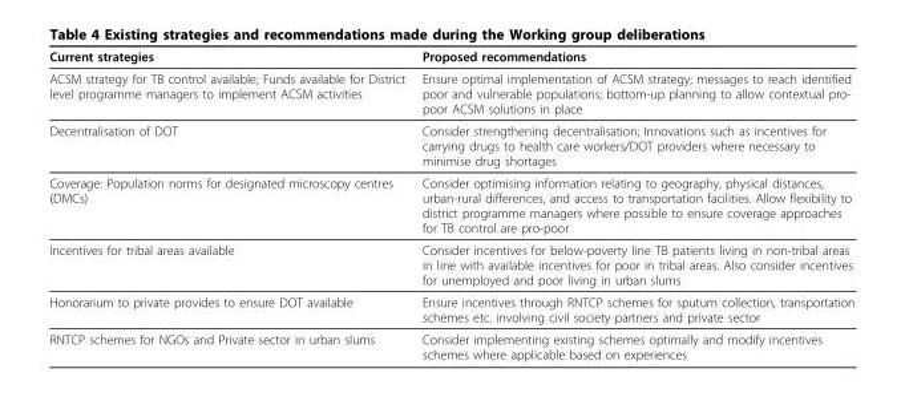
<table><thead><tr><td>Current strategies</td><td>Proposed recommendations</td></tr></thead><tbody><tr><td>ACSM strategy for TB control available; Funds available for District level programme managers to implement ACSM activities</td><td>Ensure optimal implementation of ACSM strategy; messages to reach identified poor and vulnerable populations; bottom-up planning to allow contextual pro- poor ACSM solutions in place</td></tr><tr><td>Decentralisation of DOT</td><td>Consider strengthening decentralisation; Innovations such as incentives for carrying drugs to health care workers/DOT providers where necessary to minimise drug shortages</td></tr><tr><td>Coverage: Population norms for designated microscopy centres (DMCs)</td><td>Consider optimising information relating to geography, physical distances, urban-rural differences, and access to transportation facilities. Allow flexibility to district programme managers where possible to ensure coverage approaches for TB control are pro-poor</td></tr><tr><td>Incentives for tribal areas available</td><td>Consider incentives for below-poverty line TB patients living in non-tribal areas in line with available incentives for poor in tribal areas. Also consider incentives for unemployed and poor living in urban slums</td></tr><tr><td>Honorarium to private provides to ensure DOT available</td><td>Ensure incentives through RNTCP schemes for sputum collection, transportation schemes etc. involving civil society partners and private sector</td></tr><tr><td>RNTCP schemes for NGOs and Private sector in urban slums</td><td>Consider implementing existing schemes optimally and modify incentives schemes where applicable based on experiences</td></tr></tbody></table>